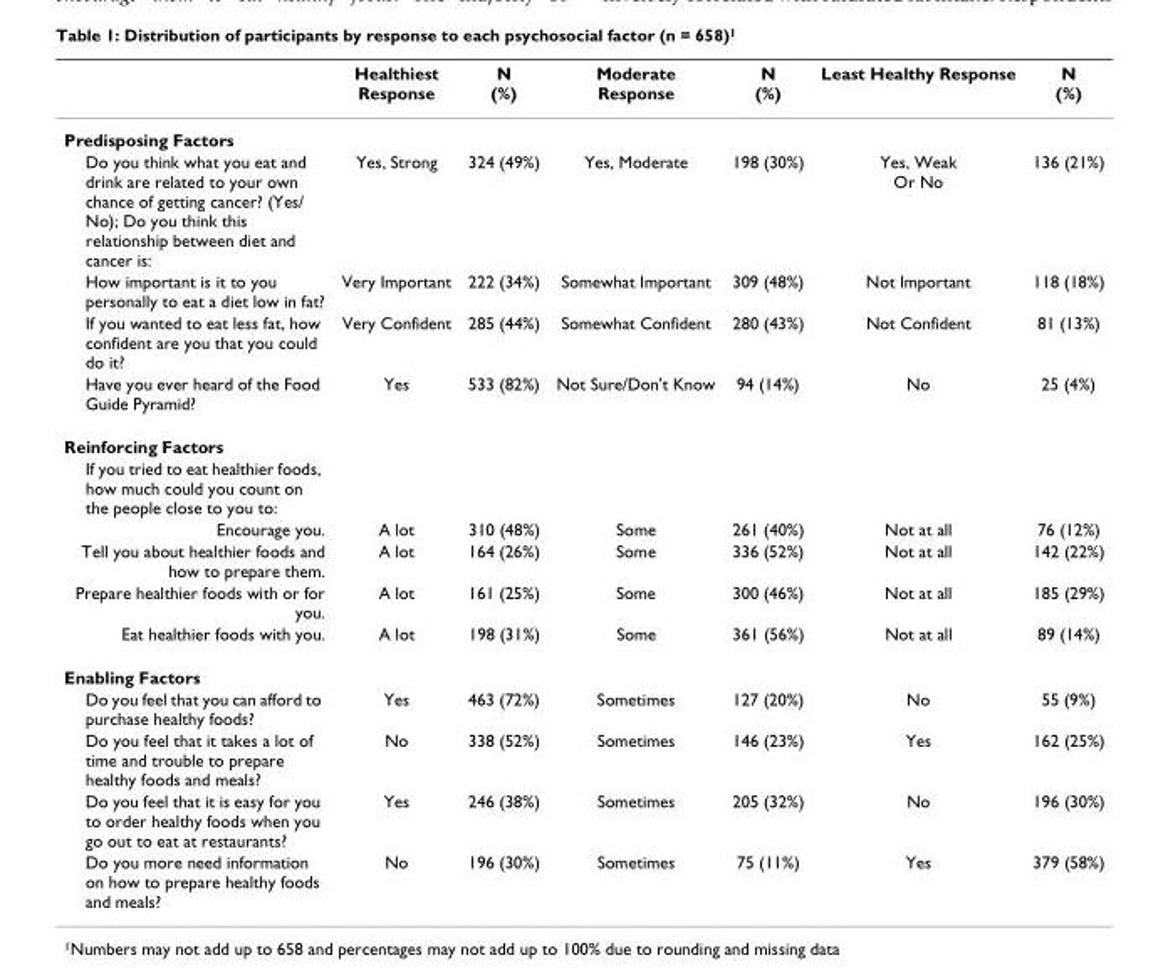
<table><thead><tr><td></td><td>Healthiest Response</td><td>N (%)</td><td>Moderate Response</td><td>N (%)</td><td>Least Healthy Response</td><td>N (%)</td></tr></thead><tbody><tr><td colspan="7">Predisposing Factors</td></tr><tr><td>Do you think what you eat and drink are related to your own chance of getting cancer? (Yes/ No); Do you think this relationship between diet and cancer is:</td><td>Yes, Strong</td><td>324 (49%)</td><td>Yes, Moderate</td><td>198 (30%)</td><td>Yes, Weak Or No</td><td>136 (21%)</td></tr><tr><td>How important is it to you personally to eat a diet low in fat?</td><td>Very Important</td><td>222 (34%)</td><td>Somewhat Important</td><td>309 (48%)</td><td>Not Important</td><td>118 (18%)</td></tr><tr><td>If you wanted to eat less fat, how confident are you that you could do it?</td><td>Very Confident</td><td>285 (44%)</td><td>Somewhat Confident</td><td>280 (43%)</td><td>Not Confident</td><td>81 (13%)</td></tr><tr><td>Have you ever heard of the Food Guide Pyramid?</td><td>Yes</td><td>533 (82%)</td><td>Not Sure/Don&#x27;t Know</td><td>94 (14%)</td><td>No</td><td>25 (4%)</td></tr><tr><td colspan="7">Reinforcing Factors</td></tr><tr><td colspan="7">If you tried to eat healthier foods, how much could you count on the people close to you to:</td></tr><tr><td>Encourage you.</td><td>A lot</td><td>310 (48%)</td><td>Some</td><td>261 (40%)</td><td>Not at all</td><td>76 (12%)</td></tr><tr><td>Tell you about healthier foods and how to prepare them.</td><td>A lot</td><td>164 (26%)</td><td>Some</td><td>336 (52%)</td><td>Not at all</td><td>142 (22%)</td></tr><tr><td>Prepare healthier foods with or for you.</td><td>A lot</td><td>161 (25%)</td><td>Some</td><td>300 (46%)</td><td>Not at all</td><td>185 (29%)</td></tr><tr><td>Eat healthier foods with you.</td><td>A lot</td><td>198 (31%)</td><td>Some</td><td>361 (56%)</td><td>Not at all</td><td>89 (14%)</td></tr><tr><td colspan="7">Enabling Factors</td></tr><tr><td>Do you feel that you can afford to purchase healthy foods?</td><td>Yes</td><td>463 (72%)</td><td>Sometimes</td><td>127 (20%)</td><td>No</td><td>55 (9%)</td></tr><tr><td>Do you feel that it takes a lot of time and trouble to prepare healthy foods and meals?</td><td>No</td><td>338 (52%)</td><td>Sometimes</td><td>146 (23%)</td><td>Yes</td><td>162 (25%)</td></tr><tr><td>Do you feel that it is easy for you to order healthy foods when you go out to eat at restaurants?</td><td>Yes</td><td>246 (38%)</td><td>Sometimes</td><td>205 (32%)</td><td>No</td><td>196 (30%)</td></tr><tr><td>Do you more need information on how to prepare healthy foods and meals?</td><td>No</td><td>196 (30%)</td><td>Sometimes</td><td>75 (11%)</td><td>Yes</td><td>379 (58%)</td></tr></tbody></table>